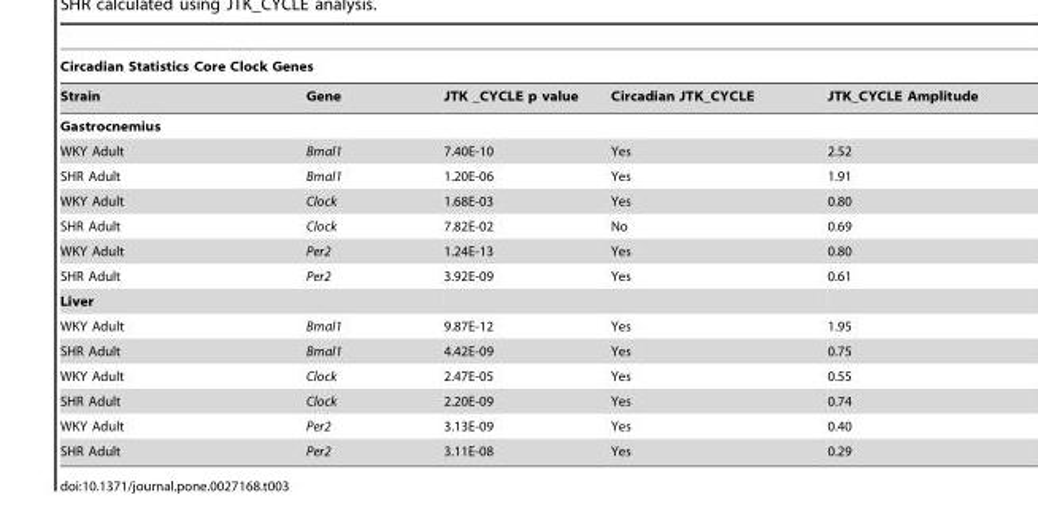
<table><thead><tr><td colspan="5">Circadian Statistics Core Clock Genes</td></tr><tr><td>Strain</td><td>Gene</td><td>JTK _CYCLE p value</td><td>Circadian JTK_CYCLE</td><td>JTK_CYCLE Amplitude</td></tr></thead><tbody><tr><td colspan="5">Gastrocnemius</td></tr><tr><td>WKY Adult</td><td>Bmal1</td><td>7.40E-10</td><td>Yes</td><td>2.52</td></tr><tr><td>SHR Adult</td><td>Bmal1</td><td>1.20E-06</td><td>Yes</td><td>1.91</td></tr><tr><td>WKY Adult</td><td>Clock</td><td>1.68E-03</td><td>Yes</td><td>0.80</td></tr><tr><td>SHR Adult</td><td>Clock</td><td>7.82E-02</td><td>No</td><td>0.69</td></tr><tr><td>WKY Adult</td><td>Per2</td><td>1.24E-13</td><td>Yes</td><td>0.80</td></tr><tr><td>SHR Adult</td><td>Per2</td><td>3.92E-09</td><td>Yes</td><td>0.61</td></tr><tr><td colspan="5">Liver</td></tr><tr><td>WKY Adult</td><td>Bmal1</td><td>9.87E-12</td><td>Yes</td><td>1.95</td></tr><tr><td>SHR Adult</td><td>Bmal1</td><td>4.42E-09</td><td>Yes</td><td>0.75</td></tr><tr><td>WKY Adult</td><td>Clock</td><td>2.47E-05</td><td>Yes</td><td>0.55</td></tr><tr><td>SHR Adult</td><td>Clock</td><td>2.20E-09</td><td>Yes</td><td>0.74</td></tr><tr><td>WKY Adult</td><td>Per2</td><td>3.13E-09</td><td>Yes</td><td>0.40</td></tr><tr><td>SHR Adult</td><td>Per2</td><td>3.11E-08</td><td>Yes</td><td>0.29</td></tr></tbody></table>